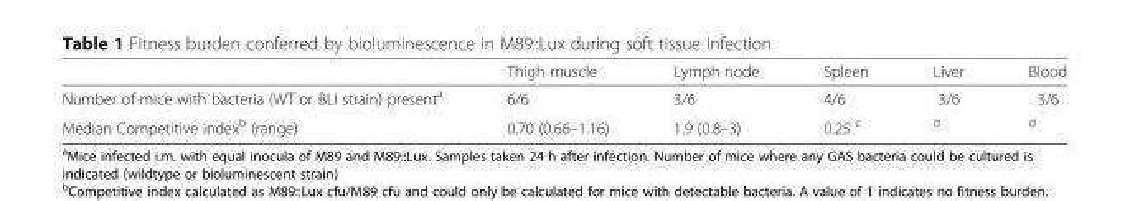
<table><thead><tr><td></td><td>Thigh muscle</td><td>Lymph node</td><td>Spleen</td><td>Liver</td><td>Blood</td></tr></thead><tbody><tr><td>Number of mice with bacteria (WT or BLI strain) present<sup>a</sup></td><td>6/6</td><td>3/6</td><td>4/6</td><td>3/6</td><td>3/6</td></tr><tr><td>Median Competitive index<sup>b</sup> (range)</td><td>0.70 (0.66–1.16)</td><td>1.9 (0.8–3)</td><td>0.25 <sup>c</sup></td><td><sup>d</sup></td><td><sup>d</sup></td></tr></tbody></table>